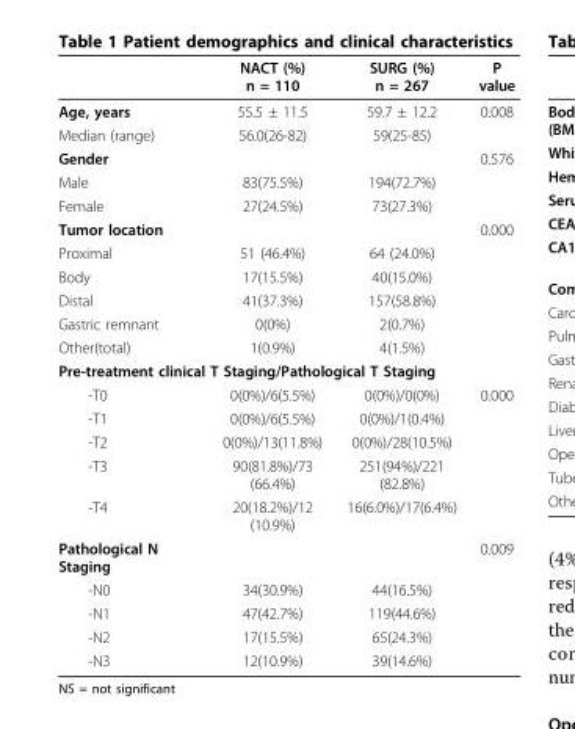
<table><thead><tr><td></td><td>NACT (%) n = 110</td><td>SURG (%) n = 267</td><td>P value</td></tr></thead><tbody><tr><td>Age, years</td><td>55.5 ± 11.5</td><td>59.7 ± 12.2</td><td>0.008</td></tr><tr><td>Median (range)</td><td>56.0(26-82)</td><td>59(25-85)</td><td></td></tr><tr><td>Gender</td><td></td><td></td><td>0.576</td></tr><tr><td>Male</td><td>83(75.5%)</td><td>194(72.7%)</td><td></td></tr><tr><td>Female</td><td>27(24.5%)</td><td>73(27.3%)</td><td></td></tr><tr><td>Tumor location</td><td></td><td></td><td>0.000</td></tr><tr><td>Proximal</td><td>51 (46.4%)</td><td>64 (24.0%)</td><td></td></tr><tr><td>Body</td><td>17(15.5%)</td><td>40(15.0%)</td><td></td></tr><tr><td>Distal</td><td>41(37.3%)</td><td>157(58.8%)</td><td></td></tr><tr><td>Gastric remnant</td><td>0(0%)</td><td>2(0.7%)</td><td></td></tr><tr><td>Other(total)</td><td>1(0.9%)</td><td>4(1.5%)</td><td></td></tr><tr><td colspan="4">Pre-treatment clinical T Staging/Pathological T Staging</td></tr><tr><td>-T0</td><td>0(0%)/6(5.5%)</td><td>0(0%)/0(0%)</td><td>0.000</td></tr><tr><td>-T1</td><td>0(0%)/6(5.5%)</td><td>0(0%)/1(0.4%)</td><td></td></tr><tr><td>-T2</td><td>0(0%)/13(11.8%)</td><td>0(0%)/28(10.5%)</td><td></td></tr><tr><td>-T3</td><td>90(81.8%)/73 (66.4%)</td><td>251(94%)/221 (82.8%)</td><td></td></tr><tr><td>-T4</td><td>20(18.2%)/12 (10.9%)</td><td>16(6.0%)/17(6.4%)</td><td></td></tr><tr><td>Pathological N Staging</td><td></td><td></td><td>0.009</td></tr><tr><td>-N0</td><td>34(30.9%)</td><td>44(16.5%)</td><td></td></tr><tr><td>-N1</td><td>47(42.7%)</td><td>119(44.6%)</td><td></td></tr><tr><td>-N2</td><td>17(15.5%)</td><td>65(24.3%)</td><td></td></tr><tr><td>-N3</td><td>12(10.9%)</td><td>39(14.6%)</td><td></td></tr></tbody></table>